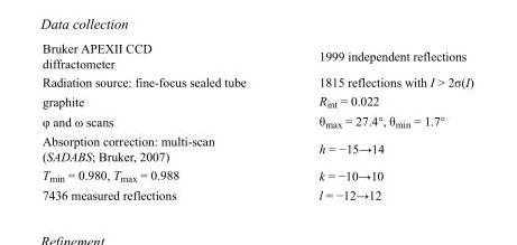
<table><tbody><tr><td>Bruker APEXII CCD diffractometer</td><td>1999 independent reflections</td></tr><tr><td>Radiation source: fine-focus sealed tube</td><td>1815 reflections with I &gt; 2σ(I)</td></tr><tr><td>graphite</td><td>R<sub>int</sub> = 0.022</td></tr><tr><td>φ and ω scans</td><td>θ<sub>max</sub> = 27.4°, θ<sub>min</sub> = 1.7°</td></tr><tr><td>Absorption correction: multi-scan (SADABS; Bruker, 2007)</td><td>h = −15→14</td></tr><tr><td>T<sub>min</sub> = 0.980, T<sub>max</sub> = 0.988</td><td>k = −10→10</td></tr><tr><td>7436 measured reflections</td><td>l = −12→12</td></tr></tbody></table>